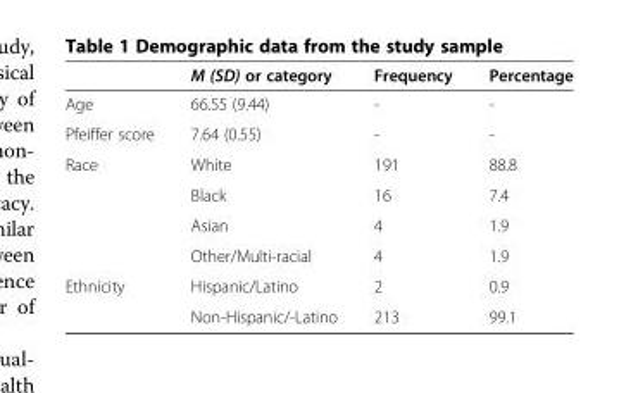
<table><thead><tr><td></td><td>M (SD) or category</td><td>Frequency</td><td>Percentage</td></tr></thead><tbody><tr><td>Age</td><td>66.55 (9.44)</td><td>-</td><td>-</td></tr><tr><td>Pfeiffer score</td><td>7.64 (0.55)</td><td>-</td><td>-</td></tr><tr><td rowspan="4">Race</td><td>White</td><td>191</td><td>88.8</td></tr><tr><td>Black</td><td>16</td><td>7.4</td></tr><tr><td>Asian</td><td>4</td><td>1.9</td></tr><tr><td>Other/Multi-racial</td><td>4</td><td>1.9</td></tr><tr><td rowspan="2">Ethnicity</td><td>Hispanic/Latino</td><td>2</td><td>0.9</td></tr><tr><td>Non-Hispanic/-Latino</td><td>213</td><td>99.1</td></tr></tbody></table>